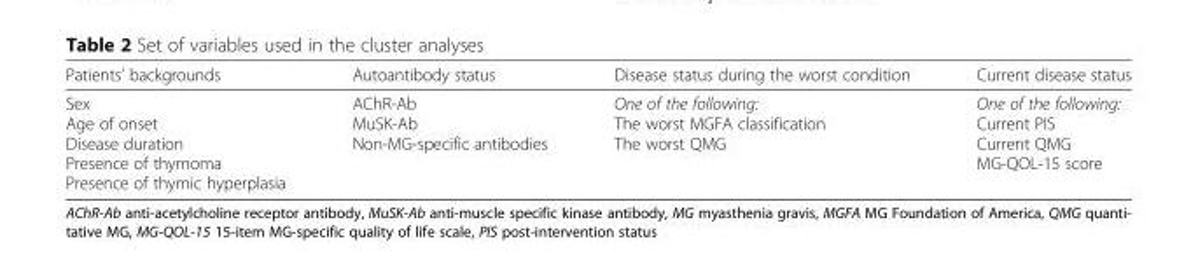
<table><thead><tr><td>Patients’ backgrounds</td><td>Autoantibody status</td><td>Disease status during the worst condition</td><td>Current disease status</td></tr></thead><tbody><tr><td>Sex Age of onset Disease duration Presence of thymoma Presence of thymic hyperplasia</td><td>AChR-Ab MuSK-Ab Non-MG-specific antibodies</td><td>One of the following: The worst MGFA classification The worst QMG</td><td>One of the following: Current PIS Current QMG MG-QOL-15 score</td></tr></tbody></table>